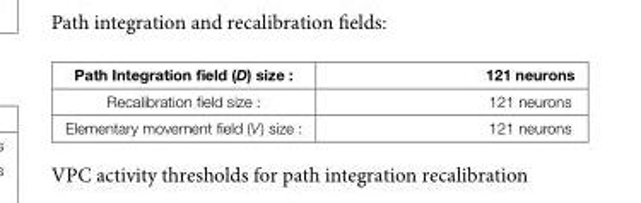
<table><thead><tr><td>Path Integration field (D) size :</td><td>121 neurons</td></tr></thead><tbody><tr><td>Recalibration field size :</td><td>121 neurons</td></tr><tr><td>Elementary movement field (V) size :</td><td>121 neurons</td></tr></tbody></table>